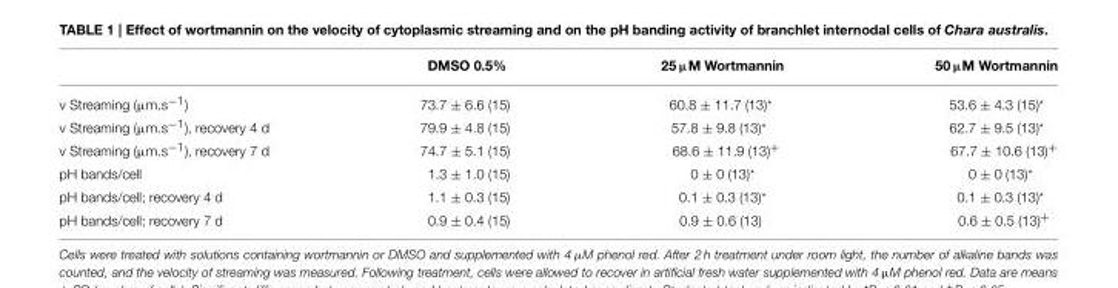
<table><thead><tr><td></td><td>DMSO 0.5%</td><td>25 µM Wortmannin</td><td>50 µM Wortmannin</td></tr></thead><tbody><tr><td>v Streaming (µm.s<sup>−1</sup>)</td><td>73.7 ± 6.6 (15)</td><td>60.8 ± 11.7 (13)*</td><td>53.6 ± 4.3 (15)*</td></tr><tr><td>v Streaming (µm.s<sup>−1</sup>), recovery 4 d</td><td>79.9 ± 4.8 (15)</td><td>57.8 ± 9.8 (13)*</td><td>62.7 ± 9.5 (13)*</td></tr><tr><td>v Streaming (µm.s<sup>−1</sup>), recovery 7 d</td><td>74.7 ± 5.1 (15)</td><td>68.6 ± 11.9 (13)<sup>+</sup></td><td>67.7 ± 10.6 (13)<sup>+</sup></td></tr><tr><td>pH bands/cell</td><td>1.3 ± 1.0 (15)</td><td>0 ± 0 (13)*</td><td>0 ± 0 (13)*</td></tr><tr><td>pH bands/cell; recovery 4 d</td><td>1.1 ± 0.3 (15)</td><td>0.1 ± 0.3 (13)*</td><td>0.1 ± 0.3 (13)*</td></tr><tr><td>pH bands/cell; recovery 7 d</td><td>0.9 ± 0.4 (15)</td><td>0.9 ± 0.6 (13)</td><td>0.6 ± 0.5 (13)<sup>+</sup></td></tr></tbody></table>